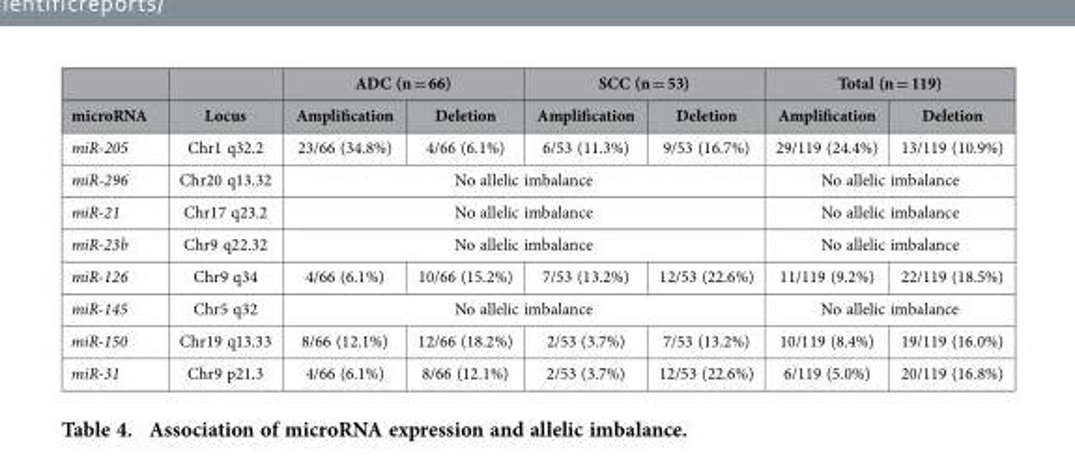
<table><thead><tr><td rowspan="2">microRNA</td><td rowspan="2">Locus</td><td colspan="2">ADC (n = 66)</td><td colspan="2">SCC (n = 53)</td><td colspan="2">Total (n = 119)</td></tr><tr><td>Amplification</td><td>Deletion</td><td>Amplification</td><td>Deletion</td><td>Amplification</td><td>Deletion</td></tr></thead><tbody><tr><td>miR-205</td><td>Chr1 q32.2</td><td>23/66 (34.8%)</td><td>4/66 (6.1%)</td><td>6/53 (11.3%)</td><td>9/53 (16.7%)</td><td>29/119 (24.4%)</td><td>13/119 (10.9%)</td></tr><tr><td>miR-296</td><td>Chr20 q13.32</td><td colspan="4">No allelic imbalance</td><td colspan="2">No allelic imbalance</td></tr><tr><td>miR-21</td><td>Chr17 q23.2</td><td colspan="4">No allelic imbalance</td><td colspan="2">No allelic imbalance</td></tr><tr><td>miR-23b</td><td>Chr9 q22.32</td><td colspan="4">No allelic imbalance</td><td colspan="2">No allelic imbalance</td></tr><tr><td>miR-126</td><td>Chr9 q34</td><td>4/66 (6.1%)</td><td>10/66 (15.2%)</td><td>7/53 (13.2%)</td><td>12/53 (22.6%)</td><td>11/119 (9.2%)</td><td>22/119 (18.5%)</td></tr><tr><td>miR-145</td><td>Chr5 q32</td><td colspan="4">No allelic imbalance</td><td colspan="2">No allelic imbalance</td></tr><tr><td>miR-150</td><td>Chr19 q13.33</td><td>8/66 (12.1%)</td><td>12/66 (18.2%)</td><td>2/53 (3.7%)</td><td>7/53 (13.2%)</td><td>10/119 (8.4%)</td><td>19/119 (16.0%)</td></tr><tr><td>miR-31</td><td>Chr9 p21.3</td><td>4/66 (6.1%)</td><td>8/66 (12.1%)</td><td>2/53 (3.7%)</td><td>12/53 (22.6%)</td><td>6/119 (5.0%)</td><td>20/119 (16.8%)</td></tr></tbody></table>